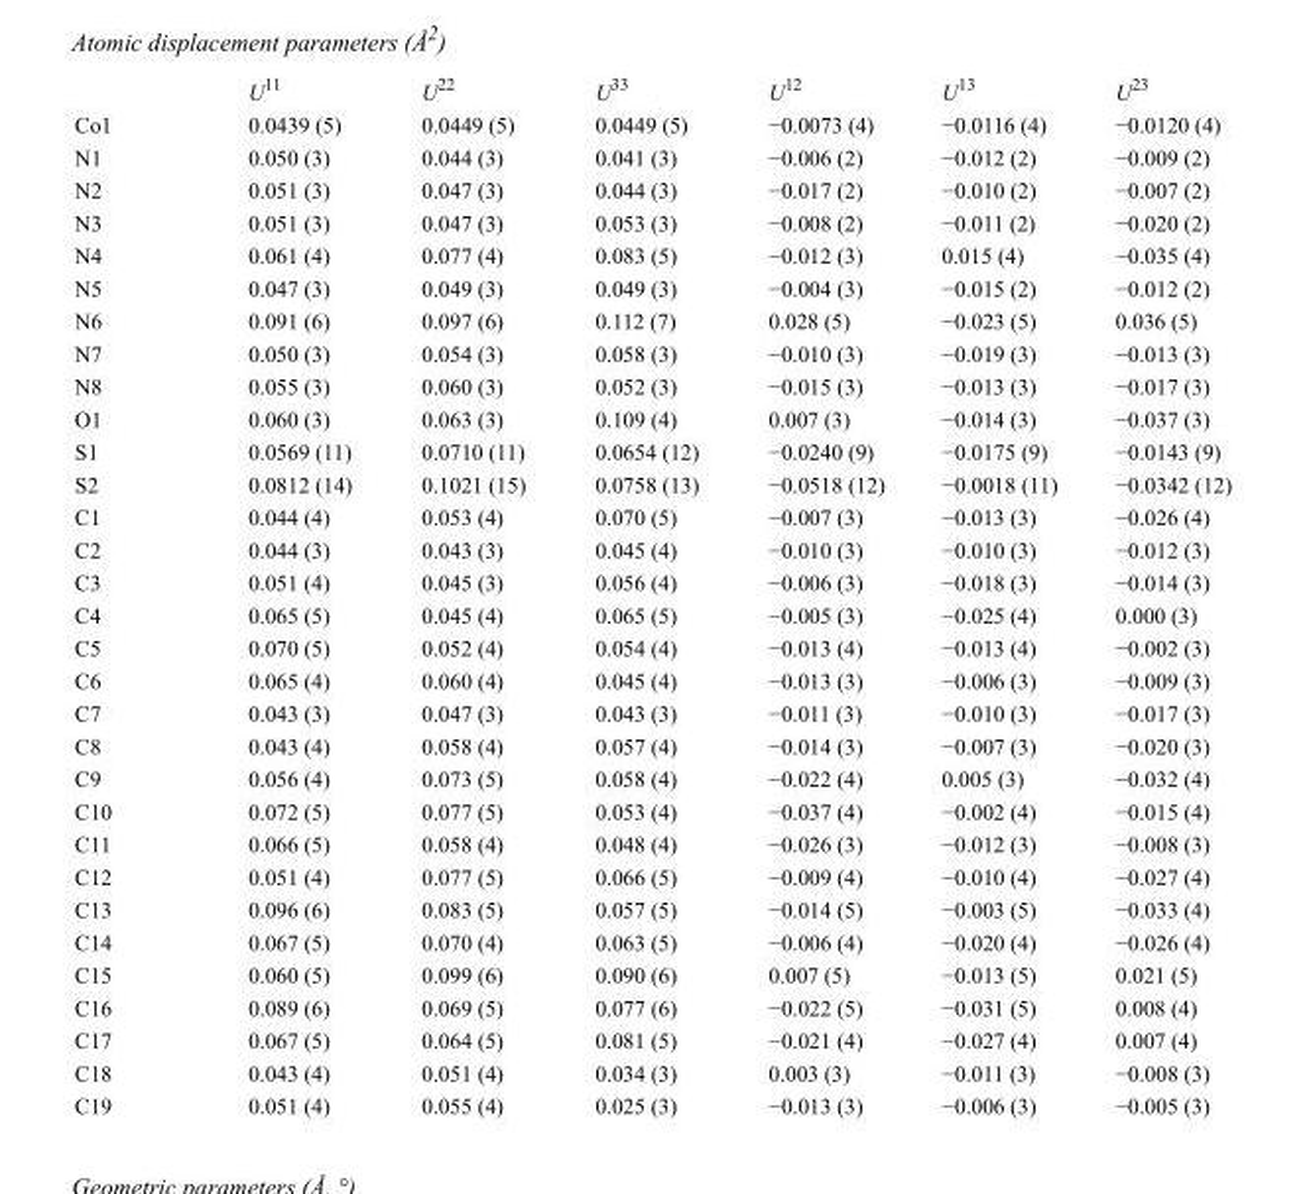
<table><thead><tr><td></td><td>U<sup>11</sup></td><td>U<sup>22</sup></td><td>U<sup>33</sup></td><td>U<sup>12</sup></td><td>U<sup>13</sup></td><td>U<sup>23</sup></td></tr></thead><tbody><tr><td>Co1</td><td>0.0439 (5)</td><td>0.0449 (5)</td><td>0.0449 (5)</td><td>−0.0073 (4)</td><td>−0.0116 (4)</td><td>−0.0120 (4)</td></tr><tr><td>N1</td><td>0.050 (3)</td><td>0.044 (3)</td><td>0.041 (3)</td><td>−0.006 (2)</td><td>−0.012 (2)</td><td>−0.009 (2)</td></tr><tr><td>N2</td><td>0.051 (3)</td><td>0.047 (3)</td><td>0.044 (3)</td><td>−0.017 (2)</td><td>−0.010 (2)</td><td>−0.007 (2)</td></tr><tr><td>N3</td><td>0.051 (3)</td><td>0.047 (3)</td><td>0.053 (3)</td><td>−0.008 (2)</td><td>−0.011 (2)</td><td>−0.020 (2)</td></tr><tr><td>N4</td><td>0.061 (4)</td><td>0.077 (4)</td><td>0.083 (5)</td><td>−0.012 (3)</td><td>0.015 (4)</td><td>−0.035 (4)</td></tr><tr><td>N5</td><td>0.047 (3)</td><td>0.049 (3)</td><td>0.049 (3)</td><td>−0.004 (3)</td><td>−0.015 (2)</td><td>−0.012 (2)</td></tr><tr><td>N6</td><td>0.091 (6)</td><td>0.097 (6)</td><td>0.112 (7)</td><td>0.028 (5)</td><td>−0.023 (5)</td><td>0.036 (5)</td></tr><tr><td>N7</td><td>0.050 (3)</td><td>0.054 (3)</td><td>0.058 (3)</td><td>−0.010 (3)</td><td>−0.019 (3)</td><td>−0.013 (3)</td></tr><tr><td>N8</td><td>0.055 (3)</td><td>0.060 (3)</td><td>0.052 (3)</td><td>−0.015 (3)</td><td>−0.013 (3)</td><td>−0.017 (3)</td></tr><tr><td>O1</td><td>0.060 (3)</td><td>0.063 (3)</td><td>0.109 (4)</td><td>0.007 (3)</td><td>−0.014 (3)</td><td>−0.037 (3)</td></tr><tr><td>S1</td><td>0.0569 (11)</td><td>0.0710 (11)</td><td>0.0654 (12)</td><td>−0.0240 (9)</td><td>−0.0175 (9)</td><td>−0.0143 (9)</td></tr><tr><td>S2</td><td>0.0812 (14)</td><td>0.1021 (15)</td><td>0.0758 (13)</td><td>−0.0518 (12)</td><td>−0.0018 (11)</td><td>−0.0342 (12)</td></tr><tr><td>C1</td><td>0.044 (4)</td><td>0.053 (4)</td><td>0.070 (5)</td><td>−0.007 (3)</td><td>−0.013 (3)</td><td>−0.026 (4)</td></tr><tr><td>C2</td><td>0.044 (3)</td><td>0.043 (3)</td><td>0.045 (4)</td><td>−0.010 (3)</td><td>−0.010 (3)</td><td>−0.012 (3)</td></tr><tr><td>C3</td><td>0.051 (4)</td><td>0.045 (3)</td><td>0.056 (4)</td><td>−0.006 (3)</td><td>−0.018 (3)</td><td>−0.014 (3)</td></tr><tr><td>C4</td><td>0.065 (5)</td><td>0.045 (4)</td><td>0.065 (5)</td><td>−0.005 (3)</td><td>−0.025 (4)</td><td>0.000 (3)</td></tr><tr><td>C5</td><td>0.070 (5)</td><td>0.052 (4)</td><td>0.054 (4)</td><td>−0.013 (4)</td><td>−0.013 (4)</td><td>−0.002 (3)</td></tr><tr><td>C6</td><td>0.065 (4)</td><td>0.060 (4)</td><td>0.045 (4)</td><td>−0.013 (3)</td><td>−0.006 (3)</td><td>−0.009 (3)</td></tr><tr><td>C7</td><td>0.043 (3)</td><td>0.047 (3)</td><td>0.043 (3)</td><td>−0.011 (3)</td><td>−0.010 (3)</td><td>−0.017 (3)</td></tr><tr><td>C8</td><td>0.043 (4)</td><td>0.058 (4)</td><td>0.057 (4)</td><td>−0.014 (3)</td><td>−0.007 (3)</td><td>−0.020 (3)</td></tr><tr><td>C9</td><td>0.056 (4)</td><td>0.073 (5)</td><td>0.058 (4)</td><td>−0.022 (4)</td><td>0.005 (3)</td><td>−0.032 (4)</td></tr><tr><td>C10</td><td>0.072 (5)</td><td>0.077 (5)</td><td>0.053 (4)</td><td>−0.037 (4)</td><td>−0.002 (4)</td><td>−0.015 (4)</td></tr><tr><td>C11</td><td>0.066 (5)</td><td>0.058 (4)</td><td>0.048 (4)</td><td>−0.026 (3)</td><td>−0.012 (3)</td><td>−0.008 (3)</td></tr><tr><td>C12</td><td>0.051 (4)</td><td>0.077 (5)</td><td>0.066 (5)</td><td>−0.009 (4)</td><td>−0.010 (4)</td><td>−0.027 (4)</td></tr><tr><td>C13</td><td>0.096 (6)</td><td>0.083 (5)</td><td>0.057 (5)</td><td>−0.014 (5)</td><td>−0.003 (5)</td><td>−0.033 (4)</td></tr><tr><td>C14</td><td>0.067 (5)</td><td>0.070 (4)</td><td>0.063 (5)</td><td>−0.006 (4)</td><td>−0.020 (4)</td><td>−0.026 (4)</td></tr><tr><td>C15</td><td>0.060 (5)</td><td>0.099 (6)</td><td>0.090 (6)</td><td>0.007 (5)</td><td>−0.013 (5)</td><td>0.021 (5)</td></tr><tr><td>C16</td><td>0.089 (6)</td><td>0.069 (5)</td><td>0.077 (6)</td><td>−0.022 (5)</td><td>−0.031 (5)</td><td>0.008 (4)</td></tr><tr><td>C17</td><td>0.067 (5)</td><td>0.064 (5)</td><td>0.081 (5)</td><td>−0.021 (4)</td><td>−0.027 (4)</td><td>0.007 (4)</td></tr><tr><td>C18</td><td>0.043 (4)</td><td>0.051 (4)</td><td>0.034 (3)</td><td>0.003 (3)</td><td>−0.011 (3)</td><td>−0.008 (3)</td></tr><tr><td>C19</td><td>0.051 (4)</td><td>0.055 (4)</td><td>0.025 (3)</td><td>−0.013 (3)</td><td>−0.006 (3)</td><td>−0.005 (3)</td></tr></tbody></table>